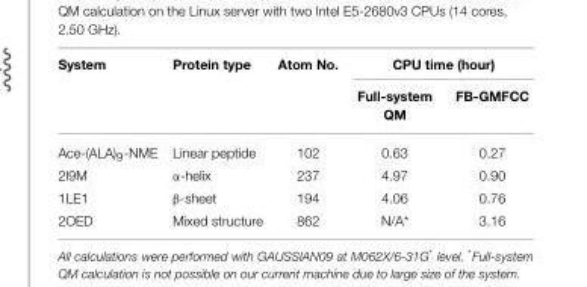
<table><thead><tr><td rowspan="2">System</td><td rowspan="2">Protein type</td><td rowspan="2">Atom No.</td><td colspan="2">CPU time (hour)</td></tr><tr><td>Full-system QM</td><td>FB-GMFCC</td></tr></thead><tbody><tr><td>Ace-(ALA)<sub>9</sub>-NME</td><td>Linear peptide</td><td>102</td><td>0.63</td><td>0.27</td></tr><tr><td>2I9M</td><td>α-helix</td><td>237</td><td>4.97</td><td>0.90</td></tr><tr><td>1LE1</td><td>β-sheet</td><td>194</td><td>4.06</td><td>0.76</td></tr><tr><td>2OED</td><td>Mixed structure</td><td>862</td><td>N/A*</td><td>3.16</td></tr></tbody></table>